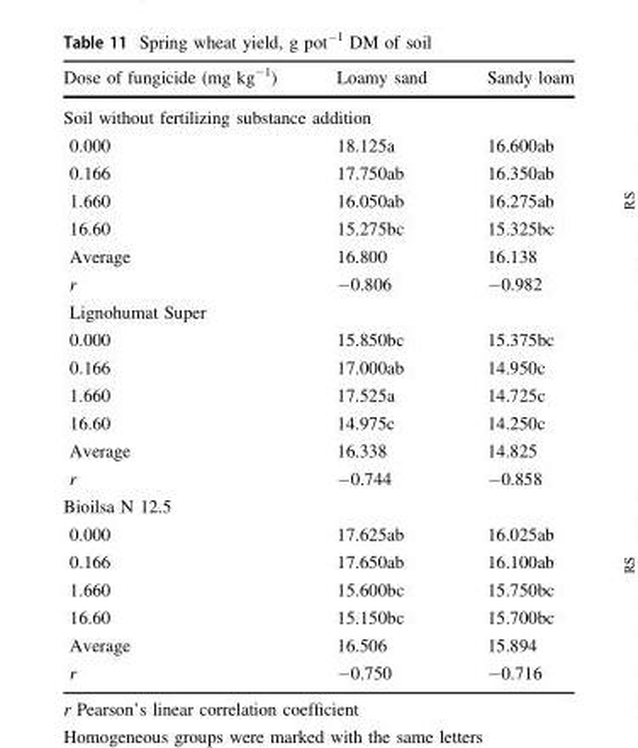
<table><thead><tr><td>Dose of fungicide (mg kg<sup>−1</sup>)</td><td>Loamy sand</td><td>Sandy loam</td></tr></thead><tbody><tr><td colspan="3">Soil without fertilizing substance addition</td></tr><tr><td>0.000</td><td>18.125a</td><td>16.600ab</td></tr><tr><td>0.166</td><td>17.750ab</td><td>16.350ab</td></tr><tr><td>1.660</td><td>16.050ab</td><td>16.275ab</td></tr><tr><td>16.60</td><td>15.275bc</td><td>15.325bc</td></tr><tr><td>Average</td><td>16.800</td><td>16.138</td></tr><tr><td>r</td><td>−0.806</td><td>−0.982</td></tr><tr><td colspan="3">Lignohumat Super</td></tr><tr><td>0.000</td><td>15.850bc</td><td>15.375bc</td></tr><tr><td>0.166</td><td>17.000ab</td><td>14.950c</td></tr><tr><td>1.660</td><td>17.525a</td><td>14.725c</td></tr><tr><td>16.60</td><td>14.975c</td><td>14.250c</td></tr><tr><td>Average</td><td>16.338</td><td>14.825</td></tr><tr><td>r</td><td>−0.744</td><td>−0.858</td></tr><tr><td colspan="3">Bioilsa N 12.5</td></tr><tr><td>0.000</td><td>17.625ab</td><td>16.025ab</td></tr><tr><td>0.166</td><td>17.650ab</td><td>16.100ab</td></tr><tr><td>1.660</td><td>15.600bc</td><td>15.750bc</td></tr><tr><td>16.60</td><td>15.150bc</td><td>15.700bc</td></tr><tr><td>Average</td><td>16.506</td><td>15.894</td></tr><tr><td>r</td><td>−0.750</td><td>−0.716</td></tr></tbody></table>